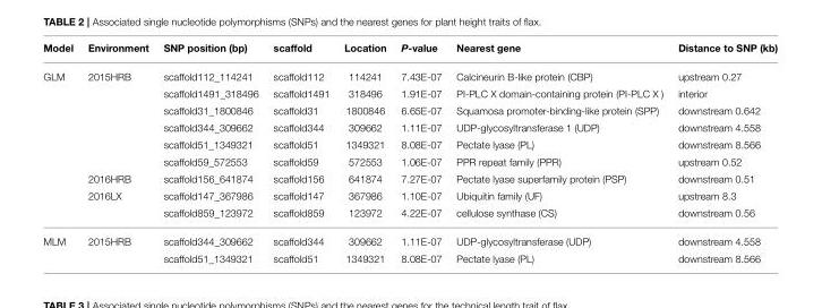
<table><thead><tr><td>Model</td><td>Environment</td><td>SNP position (bp)</td><td>scaffold</td><td>Location</td><td>P-value</td><td>Nearest gene</td><td>Distance to SNP (kb)</td></tr></thead><tbody><tr><td rowspan="9">GLM</td><td>2015HRB</td><td>scaffold112_114241</td><td>scaffold112</td><td>114241</td><td>7.43E-07</td><td>Calcineurin B-like protein (CBP)</td><td>upstream 0.27</td></tr><tr><td></td><td>scaffold1491_318496</td><td>scaffold1491</td><td>318496</td><td>1.91E-07</td><td>PI-PLC X domain-containing protein (PI-PLC X )</td><td>interior</td></tr><tr><td></td><td>scaffold31_1800846</td><td>scaffold31</td><td>1800846</td><td>6.65E-07</td><td>Squamosa promoter-binding-like protein (SPP)</td><td>downstream 0.642</td></tr><tr><td></td><td>scaffold344_309662</td><td>scaffold344</td><td>309662</td><td>1.11E-07</td><td>UDP-glycosyltransferase 1 (UDP)</td><td>downstream 4.558</td></tr><tr><td></td><td>scaffold51_1349321</td><td>scaffold51</td><td>1349321</td><td>8.08E-07</td><td>Pectate lyase (PL)</td><td>downstream 8.566</td></tr><tr><td></td><td>scaffold59_572553</td><td>scaffold59</td><td>572553</td><td>1.06E-07</td><td>PPR repeat family (PPR)</td><td>upstream 0.52</td></tr><tr><td>2016HRB</td><td>scaffold156_641874</td><td>scaffold156</td><td>641874</td><td>7.27E-07</td><td>Pectate lyase superfamily protein (PSP)</td><td>downstream 0.51</td></tr><tr><td>2016LX</td><td>scaffold147_367986</td><td>scaffold147</td><td>367986</td><td>1.10E-07</td><td>Ubiquitin family (UF)</td><td>upstream 8.3</td></tr><tr><td></td><td>scaffold859_123972</td><td>scaffold859</td><td>123972</td><td>4.22E-07</td><td>cellulose synthase (CS)</td><td>downstream 0.56</td></tr><tr><td rowspan="2">MLM</td><td>2015HRB</td><td>scaffold344_309662</td><td>scaffold344</td><td>309662</td><td>1.11E-07</td><td>UDP-glycosyltransferase (UDP)</td><td>downstream 4.558</td></tr><tr><td></td><td>scaffold51_1349321</td><td>scaffold51</td><td>1349321</td><td>8.08E-07</td><td>Pectate lyase (PL)</td><td>downstream 8.566</td></tr></tbody></table>